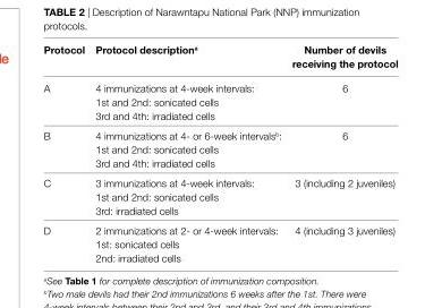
<table><thead><tr><td>Protocol</td><td>Protocol description<sup>a</sup></td><td>number of devils receiving the protocol</td></tr></thead><tbody><tr><td>A</td><td>4 immunizations at 4-week intervals: 1st and 2nd: sonicated cells 3rd and 4th: irradiated cells</td><td>6</td></tr><tr><td>B</td><td>4 immunizations at 4- or 6-week intervals<sup>b</sup>: 1st and 2nd: sonicated cells 3rd and 4th: irradiated cells</td><td>6</td></tr><tr><td>C</td><td>3 immunizations at 4-week intervals: 1st and 2nd: sonicated cells 3rd: irradiated cells</td><td>3 (including 2 juveniles)</td></tr><tr><td>D</td><td>2 immunizations at 2- or 4-week intervals: 1st: sonicated cells 2nd: irradiated cells</td><td>4 (including 3 juveniles)</td></tr></tbody></table>